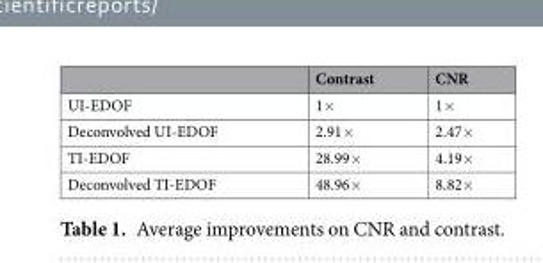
<table><thead><tr><td></td><td>Contrast</td><td>CNR</td></tr></thead><tbody><tr><td>UI-EDOF</td><td>1×</td><td>1×</td></tr><tr><td>Deconvolved UI-EDOF</td><td>2.91×</td><td>2.47×</td></tr><tr><td>TI-EDOF</td><td>28.99×</td><td>4.19×</td></tr><tr><td>Deconvolved TI-EDOF</td><td>48.96×</td><td>8.82×</td></tr></tbody></table>